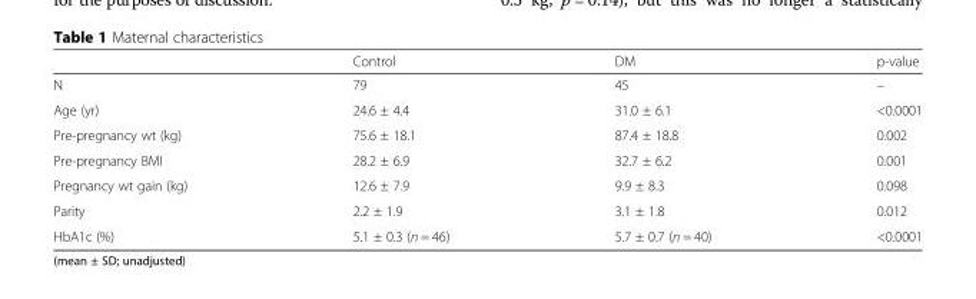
<table><thead><tr><td></td><td>Control</td><td>DM</td><td>p-value</td></tr></thead><tbody><tr><td>N</td><td>79</td><td>45</td><td>–</td></tr><tr><td>Age (yr)</td><td>24.6 ± 4.4</td><td>31.0 ± 6.1</td><td>&lt;0.0001</td></tr><tr><td>Pre-pregnancy wt (kg)</td><td>75.6 ± 18.1</td><td>87.4 ± 18.8</td><td>0.002</td></tr><tr><td>Pre-pregnancy BMI</td><td>28.2 ± 6.9</td><td>32.7 ± 6.2</td><td>0.001</td></tr><tr><td>Pregnancy wt gain (kg)</td><td>12.6 ± 7.9</td><td>9.9 ± 8.3</td><td>0.098</td></tr><tr><td>Parity</td><td>2.2 ± 1.9</td><td>3.1 ± 1.8</td><td>0.012</td></tr><tr><td>HbA1c (%)</td><td>5.1 ± 0.3 (n = 46)</td><td>5.7 ± 0.7 (n = 40)</td><td>&lt;0.0001</td></tr></tbody></table>